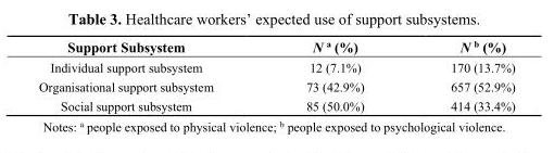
<table><thead><tr><td>Support Subsystem</td><td>N <sup>a</sup> (%)</td><td>N <sup>b</sup> (%)</td></tr></thead><tbody><tr><td>Individual support subsystem</td><td>12 (7.1%)</td><td>170 (13.7%)</td></tr><tr><td>Organisational support subsystem</td><td>73 (42.9%)</td><td>657 (52.9%)</td></tr><tr><td>Social support subsystem</td><td>85 (50.0%)</td><td>414 (33.4%)</td></tr></tbody></table>